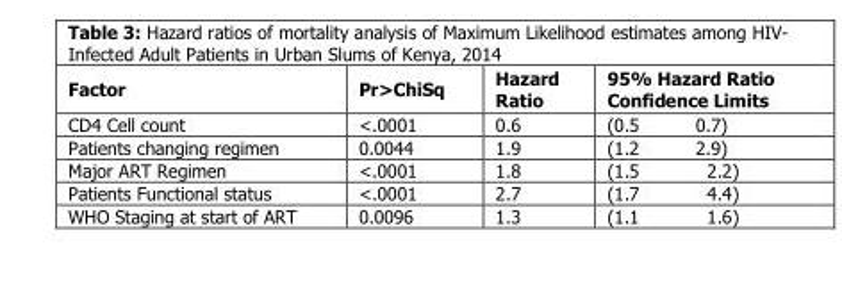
<table><thead><tr><td>Factor</td><td>Pr&gt;ChiSq</td><td>Hazard Ratio</td><td>95% Hazard Ratio Confidence Limits</td></tr></thead><tbody><tr><td>CD4 Cell count</td><td>&lt;.0001</td><td>0.6</td><td>(0.5 0.7)</td></tr><tr><td>Patients changing regimen</td><td>0.0044</td><td>1.9</td><td>(1.2 2.9)</td></tr><tr><td>Major ART Regimen</td><td>&lt;.0001</td><td>1.8</td><td>(1.5 2.2)</td></tr><tr><td>Patients Functional status</td><td>&lt;.0001</td><td>2.7</td><td>(1.7 4.4)</td></tr><tr><td>WHO Staging at start of ART</td><td>0.0096</td><td>1.3</td><td>(1.1 1.6)</td></tr></tbody></table>